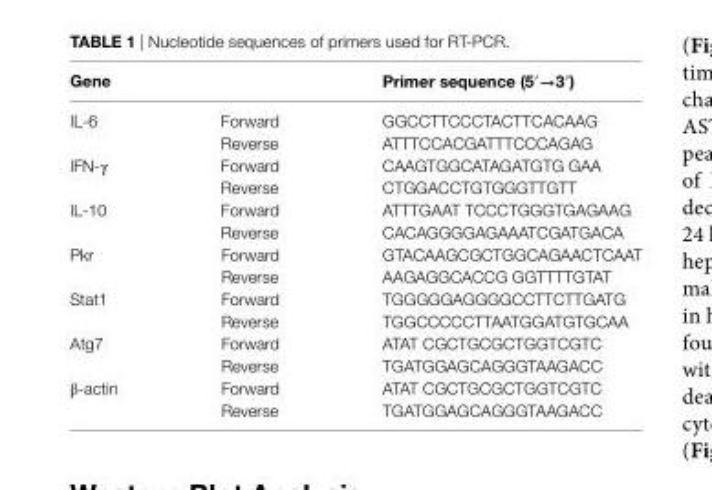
<table><thead><tr><td>gene</td><td></td><td>Primer sequence (5′→3′)</td></tr></thead><tbody><tr><td>IL-6</td><td>Forward Reverse</td><td>GGCCTTCCCTACTTCACAAG ATTTCCACGATTTCCCAGAG</td></tr><tr><td>IFN-γ</td><td>Forward Reverse</td><td>CAAGTGGCATAGATGTG GAA CTGGACCTGTGGGTTGTT</td></tr><tr><td>IL-10</td><td>Forward Reverse</td><td>ATTTGAAT TCCCTGGGTGAGAAG CACAGGGGAGAAATCGATGACA</td></tr><tr><td>Pkr</td><td>Forward Reverse</td><td>GTACAAGCGCTGGCAGAACTCAAT AAGAGGCACCG GGTTTTGTAT</td></tr><tr><td>Stat1</td><td>Forward Reverse</td><td>TGGGGGAGGGGCCTTCTTGATG TGGCCCCCTTAATGGATGTGCAA</td></tr><tr><td>Atg7</td><td>Forward Reverse</td><td>ATAT CGCTGCGCTGGTCGTC TGATGGAGCAGGGTAAGACC</td></tr><tr><td>β-actin</td><td>Forward Reverse</td><td>ATAT CGCTGCGCTGGTCGTC TGATGGAGCAGGGTAAGACC</td></tr></tbody></table>